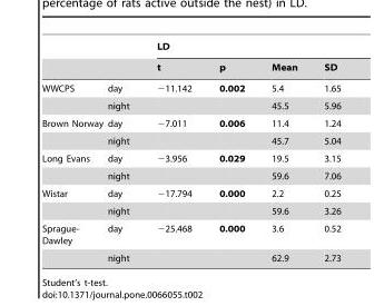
<table><thead><tr><td rowspan="2"></td><td rowspan="2"></td><td colspan="4">LD</td></tr><tr><td>t</td><td>p</td><td>Mean</td><td>SD</td></tr></thead><tbody><tr><td rowspan="2">WWCPS</td><td>day</td><td>−11.142</td><td>0.002</td><td>5.4</td><td>1.65</td></tr><tr><td>night</td><td></td><td></td><td>45.5</td><td>5.96</td></tr><tr><td rowspan="2">Brown Norway</td><td>day</td><td>−7.011</td><td>0.006</td><td>11.4</td><td>1.24</td></tr><tr><td>night</td><td></td><td></td><td>45.7</td><td>5.04</td></tr><tr><td rowspan="2">Long Evans</td><td>day</td><td>−3.956</td><td>0.029</td><td>19.5</td><td>3.15</td></tr><tr><td>night</td><td></td><td></td><td>59.6</td><td>7.06</td></tr><tr><td rowspan="2">Wistar</td><td>day</td><td>−17.794</td><td>0.000</td><td>2.2</td><td>0.25</td></tr><tr><td>night</td><td></td><td></td><td>59.6</td><td>3.26</td></tr><tr><td rowspan="2">Sprague- Dawley</td><td>day</td><td>−25.468</td><td>0.000</td><td>3.6</td><td>0.52</td></tr><tr><td>night</td><td></td><td></td><td>62.9</td><td>2.73</td></tr></tbody></table>